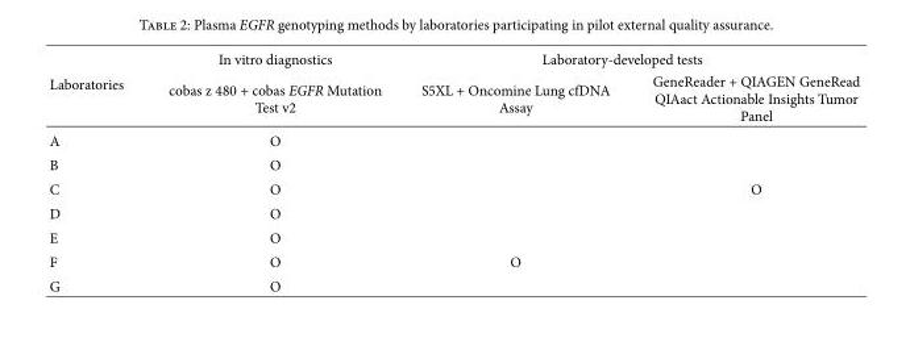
<table><thead><tr><td rowspan="2">Laboratories</td><td rowspan="2">In vitro diagnostics cobas z 480 + cobas EGFR Mutation Test v2</td><td colspan="2">Laboratory-developed tests</td></tr><tr><td>S5XL + Oncomine Lung cfDNA Assay</td><td>GeneReader + QIAGEN GeneRead QIAact Actionable Insights Tumor Panel</td></tr></thead><tbody><tr><td>A</td><td>O</td><td></td><td></td></tr><tr><td>B</td><td>O</td><td></td><td></td></tr><tr><td>C</td><td>O</td><td></td><td>O</td></tr><tr><td>D</td><td>O</td><td></td><td></td></tr><tr><td>E</td><td>O</td><td></td><td></td></tr><tr><td>F</td><td>O</td><td>O</td><td></td></tr><tr><td>G</td><td>O</td><td></td><td></td></tr></tbody></table>